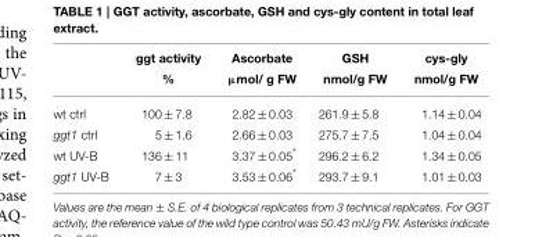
<table><thead><tr><td></td><td>ggt activity %</td><td>Ascorbate µmol/ g FW</td><td>GSH nmol/g FW</td><td>cys-gly nmol/g FW</td></tr></thead><tbody><tr><td>wt ctrl</td><td>100 ± 7.8</td><td>2.82 ± 0.03</td><td>261.9 ± 5.8</td><td>1.14 ± 0.04</td></tr><tr><td>ggt1 ctrl</td><td>5 ± 1.6</td><td>2.66 ± 0.03</td><td>275.7 ± 7.5</td><td>1.04 ± 0.04</td></tr><tr><td>wt UV-B</td><td>136 ± 11</td><td>3.37 ± 0.05*</td><td>296.2 ± 6.2</td><td>1.34 ± 0.05</td></tr><tr><td>ggt1 UV-B</td><td>7 ± 3</td><td>3.53 ± 0.06*</td><td>293.7 ± 9.1</td><td>1.01 ± 0.03</td></tr></tbody></table>